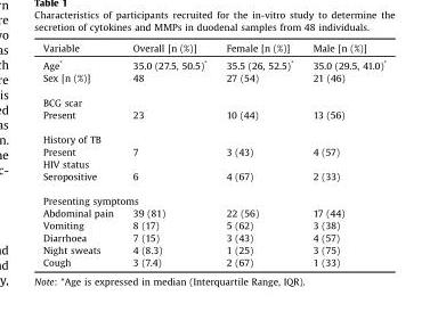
<table><thead><tr><td>Variable</td><td>Overall [n (%)]</td><td>Female [n (%)]</td><td>Male [n (%)]</td></tr></thead><tbody><tr><td>Age*</td><td>35.0 (27.5, 50.5)*</td><td>35.5 (26, 52.5)*</td><td>35.0 (29.5, 41.0)*</td></tr><tr><td>Sex [n (%)]</td><td>48</td><td>27 (54)</td><td>21 (46)</td></tr><tr><td colspan="4">BCG scar</td></tr><tr><td>Present</td><td>23</td><td>10 (44)</td><td>13 (56)</td></tr><tr><td colspan="4">History of TB</td></tr><tr><td>Present</td><td>7</td><td>3 (43)</td><td>4 (57)</td></tr><tr><td colspan="4">HIV status</td></tr><tr><td>Seropositive</td><td>6</td><td>4 (67)</td><td>2 (33)</td></tr><tr><td colspan="4">Presenting symptoms</td></tr><tr><td>Abdominal pain</td><td>39 (81)</td><td>22 (56)</td><td>17 (44)</td></tr><tr><td>Vomiting</td><td>8 (17)</td><td>5 (62)</td><td>3 (38)</td></tr><tr><td>Diarrhoea</td><td>7 (15)</td><td>3 (43)</td><td>4 (57)</td></tr><tr><td>Night sweats</td><td>4 (8.3)</td><td>1 (25)</td><td>3 (75)</td></tr><tr><td>Cough</td><td>3 (7.4)</td><td>2 (67)</td><td>1 (33)</td></tr></tbody></table>